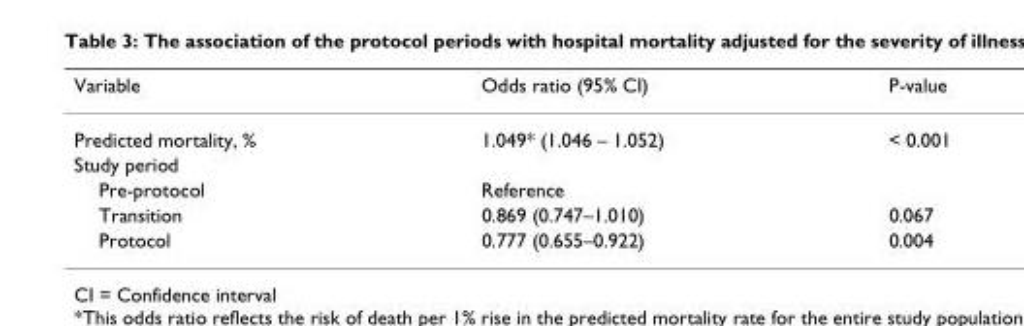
<table><thead><tr><td>Variable</td><td>Odds ratio (95% CI)</td><td>P-value</td></tr></thead><tbody><tr><td>Predicted mortality, %</td><td>1.049* (1.046 – 1.052)</td><td>&lt; 0.001</td></tr><tr><td colspan="3">Study period</td></tr><tr><td>Pre-protocol</td><td>Reference</td><td></td></tr><tr><td>Transition</td><td>0.869 (0.747–1.010)</td><td>0.067</td></tr><tr><td>Protocol</td><td>0.777 (0.655–0.922)</td><td>0.004</td></tr></tbody></table>